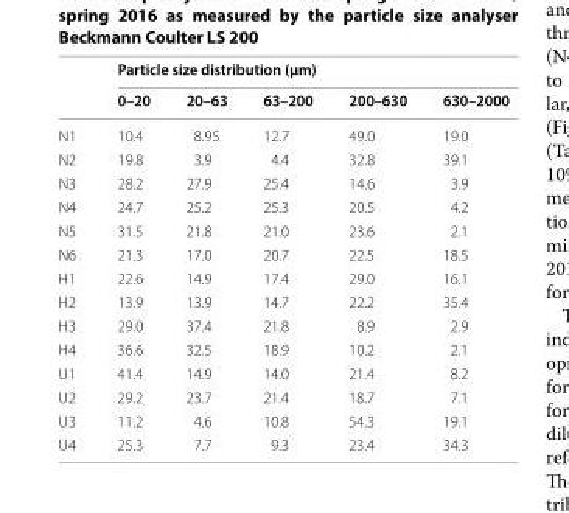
<table><thead><tr><td rowspan="2"></td><td colspan="5">Particle size distribution (µm)</td></tr><tr><td>0–20</td><td>20–63</td><td>63–200</td><td>200–630</td><td>630–2000</td></tr></thead><tbody><tr><td>N1</td><td>10.4</td><td>8.95</td><td>12.7</td><td>49.0</td><td>19.0</td></tr><tr><td>N2</td><td>19.8</td><td>3.9</td><td>4.4</td><td>32.8</td><td>39.1</td></tr><tr><td>N3</td><td>28.2</td><td>27.9</td><td>25.4</td><td>14.6</td><td>3.9</td></tr><tr><td>N4</td><td>24.7</td><td>25.2</td><td>25.3</td><td>20.5</td><td>4.2</td></tr><tr><td>N5</td><td>31.5</td><td>21.8</td><td>21.0</td><td>23.6</td><td>2.1</td></tr><tr><td>N6</td><td>21.3</td><td>17.0</td><td>20.7</td><td>22.5</td><td>18.5</td></tr><tr><td>H1</td><td>22.6</td><td>14.9</td><td>17.4</td><td>29.0</td><td>16.1</td></tr><tr><td>H2</td><td>13.9</td><td>13.9</td><td>14.7</td><td>22.2</td><td>35.4</td></tr><tr><td>H3</td><td>29.0</td><td>37.4</td><td>21.8</td><td>8.9</td><td>2.9</td></tr><tr><td>H4</td><td>36.6</td><td>32.5</td><td>18.9</td><td>10.2</td><td>2.1</td></tr><tr><td>U1</td><td>41.4</td><td>14.9</td><td>14.0</td><td>21.4</td><td>8.2</td></tr><tr><td>U2</td><td>29.2</td><td>23.7</td><td>21.4</td><td>18.7</td><td>7.1</td></tr><tr><td>U3</td><td>11.2</td><td>4.6</td><td>10.8</td><td>54.3</td><td>19.1</td></tr><tr><td>U4</td><td>25.3</td><td>7.7</td><td>9.3</td><td>23.4</td><td>34.3</td></tr></tbody></table>